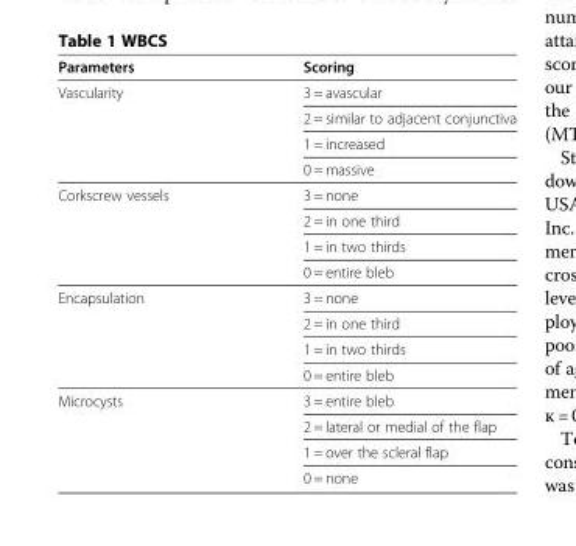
<table><thead><tr><td>Parameters</td><td>Scoring</td></tr></thead><tbody><tr><td rowspan="4">Vascularity</td><td>3 = avascular</td></tr><tr><td>2 = similar to adjacent conjunctiva</td></tr><tr><td>1 = increased</td></tr><tr><td>0 = massive</td></tr><tr><td rowspan="4">Corkscrew vessels</td><td>3 = none</td></tr><tr><td>2 = in one third</td></tr><tr><td>1 = in two thirds</td></tr><tr><td>0 = entire bleb</td></tr><tr><td rowspan="4">Encapsulation</td><td>3 = none</td></tr><tr><td>2 = in one third</td></tr><tr><td>1 = in two thirds</td></tr><tr><td>0 = entire bleb</td></tr><tr><td rowspan="4">Microcysts</td><td>3 = entire bleb</td></tr><tr><td>2 = lateral or medial of the flap</td></tr><tr><td>1 = over the scleral flap</td></tr><tr><td>0 = none</td></tr></tbody></table>